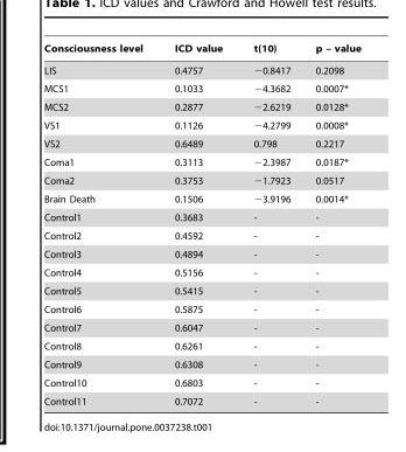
<table><thead><tr><td>Consciousness level</td><td>ICD value</td><td>t(10)</td><td>p – value</td></tr></thead><tbody><tr><td>LIS</td><td>0.4757</td><td>−0.8417</td><td>0.2098</td></tr><tr><td>MCS1</td><td>0.1033</td><td>−4.3682</td><td>0.0007*</td></tr><tr><td>MCS2</td><td>0.2877</td><td>−2.6219</td><td>0.0128*</td></tr><tr><td>VS1</td><td>0.1126</td><td>−4.2799</td><td>0.0008*</td></tr><tr><td>VS2</td><td>0.6489</td><td>0.798</td><td>0.2217</td></tr><tr><td>Coma1</td><td>0.3113</td><td>−2.3987</td><td>0.0187*</td></tr><tr><td>Coma2</td><td>0.3753</td><td>−1.7923</td><td>0.0517</td></tr><tr><td>Brain Death</td><td>0.1506</td><td>−3.9196</td><td>0.0014*</td></tr><tr><td>Control1</td><td>0.3683</td><td>-</td><td>-</td></tr><tr><td>Control2</td><td>0.4592</td><td>-</td><td>-</td></tr><tr><td>Control3</td><td>0.4894</td><td>-</td><td>-</td></tr><tr><td>Control4</td><td>0.5156</td><td>-</td><td>-</td></tr><tr><td>Control5</td><td>0.5415</td><td>-</td><td>-</td></tr><tr><td>Control6</td><td>0.5875</td><td>-</td><td>-</td></tr><tr><td>Control7</td><td>0.6047</td><td>-</td><td>-</td></tr><tr><td>Control8</td><td>0.6261</td><td>-</td><td>-</td></tr><tr><td>Control9</td><td>0.6308</td><td>-</td><td>-</td></tr><tr><td>Control10</td><td>0.6803</td><td>-</td><td>-</td></tr><tr><td>Control11</td><td>0.7072</td><td>-</td><td>-</td></tr></tbody></table>